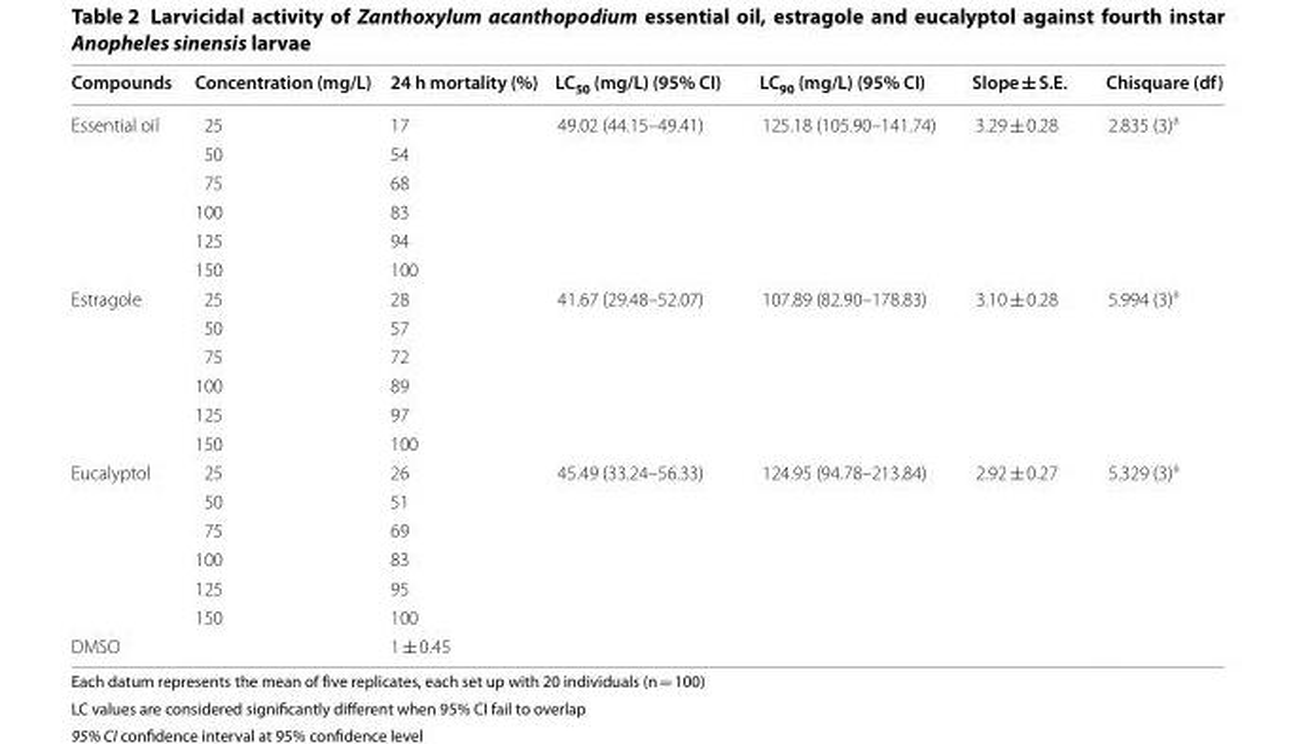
<table><thead><tr><td>Compounds</td><td>Concentration (mg/L)</td><td>24 h mortality (%)</td><td>LC<sub>50</sub> (mg/L) (95% CI)</td><td>LC<sub>90</sub> (mg/L) (95% CI)</td><td>Slope ± S.E.</td><td>Chisquare (df)</td></tr></thead><tbody><tr><td rowspan="6">Essential oil</td><td>25</td><td>17</td><td rowspan="6">49.02 (44.15–49.41)</td><td rowspan="6">125.18 (105.90–141.74)</td><td rowspan="6">3.29 ± 0.28</td><td rowspan="6">2.835 (3)<sup>a</sup></td></tr><tr><td>50</td><td>54</td></tr><tr><td>75</td><td>68</td></tr><tr><td>100</td><td>83</td></tr><tr><td>125</td><td>94</td></tr><tr><td>150</td><td>100</td></tr><tr><td rowspan="6">Estragole</td><td>25</td><td>28</td><td rowspan="6">41.67 (29.48–52.07)</td><td rowspan="6">107.89 (82.90–178.83)</td><td rowspan="6">3.10 ± 0.28</td><td rowspan="6">5.994 (3)<sup>a</sup></td></tr><tr><td>50</td><td>57</td></tr><tr><td>75</td><td>72</td></tr><tr><td>100</td><td>89</td></tr><tr><td>125</td><td>97</td></tr><tr><td>150</td><td>100</td></tr><tr><td rowspan="6">Eucalyptol</td><td>25</td><td>26</td><td rowspan="6">45.49 (33.24–56.33)</td><td rowspan="6">124.95 (94.78–213.84)</td><td rowspan="6">2.92 ± 0.27</td><td rowspan="6">5.329 (3)<sup>a</sup></td></tr><tr><td>50</td><td>51</td></tr><tr><td>75</td><td>69</td></tr><tr><td>100</td><td>83</td></tr><tr><td>125</td><td>95</td></tr><tr><td>150</td><td>100</td></tr><tr><td>DMSO</td><td></td><td>1 ± 0.45</td><td></td><td></td><td></td><td></td></tr></tbody></table>